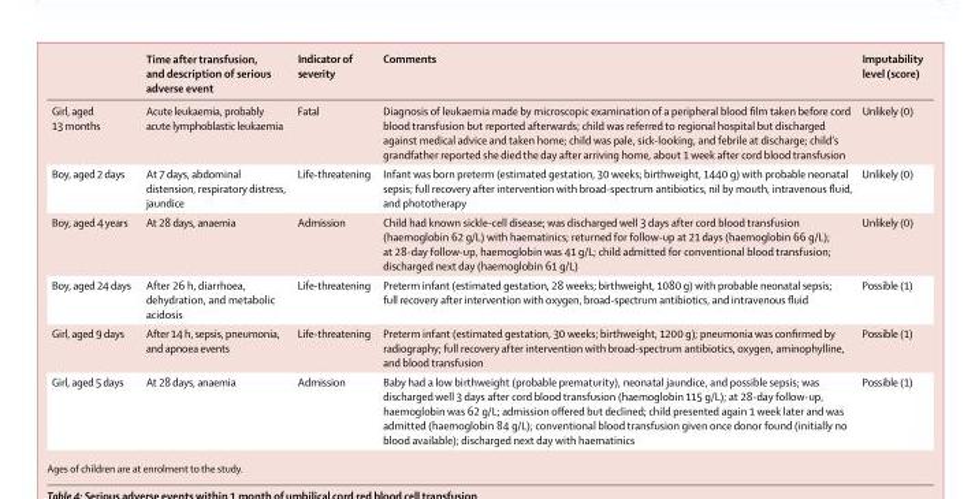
<table><thead><tr><td></td><td>Time after transfusion, and description of serious adverse event</td><td>Indicator of severity</td><td>Comments</td><td>Imputability level (score)</td></tr></thead><tbody><tr><td>Girl, aged 13 months</td><td>Acute leukaemia, probably acute lymphoblastic leukaemia</td><td>Fatal</td><td>Diagnosis of leukaemia made by microscopic examination of a peripheral blood fi lm taken before cord blood transfusion but reported afterwards; child was referred to regional hospital but discharged against medical advice and taken home; child was pale, sick-looking, and febrile at discharge; child’s grandfather reported she died the day after arriving home, about 1 week after cord blood transfusion</td><td>Unlikely (0)</td></tr><tr><td>Boy, aged 2 days</td><td>At 7 days, abdominal distension, respiratory distress, jaundice</td><td>Life-threatening</td><td>Infant was born preterm (estimated gestation, 30 weeks; birthweight, 1440 g) with probable neonatal sepsis; full recovery after intervention with broad-spectrum antibiotics, nil by mouth, intravenous fl uid, and phototherapy</td><td>Unlikely (0)</td></tr><tr><td>Boy, aged 4 years</td><td>At 28 days, anaemia</td><td>Admission</td><td>Child had known sickle-cell disease; was discharged well 3 days after cord blood transfusion (haemoglobin 62 g/L) with haematinics; returned for follow-up at 21 days (haemoglobin 66 g/L); at 28-day follow-up, haemoglobin was 41 g/L; child admitted for conventional blood transfusion; discharged next day (haemoglobin 61 g/L)</td><td>Unlikely (0)</td></tr><tr><td>Boy, aged 24 days</td><td>After 26 h, diarrhoea, dehydration, and metabolic acidosis</td><td>Life-threatening</td><td>Preterm infant (estimated gestation, 28 weeks; birthweight, 1080 g) with probable neonatal sepsis; full recovery after intervention with oxygen, broad-spectrum antibiotics, and intravenous fl uid</td><td>Possible (1)</td></tr><tr><td>Girl, aged 9 days</td><td>After 14 h, sepsis, pneumonia, and apnoea events</td><td>Life-threatening</td><td>Preterm infant (estimated gestation, 30 weeks; birthweight, 1200 g); pneumonia was confi rmed by radiography; full recovery after intervention with broad-spectrum antibiotics, oxygen, aminophylline, and blood transfusion</td><td>Possible (1)</td></tr><tr><td>Girl, aged 5 days</td><td>At 28 days, anaemia</td><td>Admission</td><td>Baby had a low birthweight (probable prematurity), neonatal jaundice, and possible sepsis; was discharged well 3 days after cord blood transfusion (haemoglobin 115 g/L); at 28-day follow-up, haemoglobin was 62 g/L; admission off ered but declined; child presented again 1 week later and was admitted (haemoglobin 84 g/L); conventional blood transfusion given once donor found (initially no blood available); discharged next day with haematinics</td><td>Possible (1)</td></tr></tbody></table>